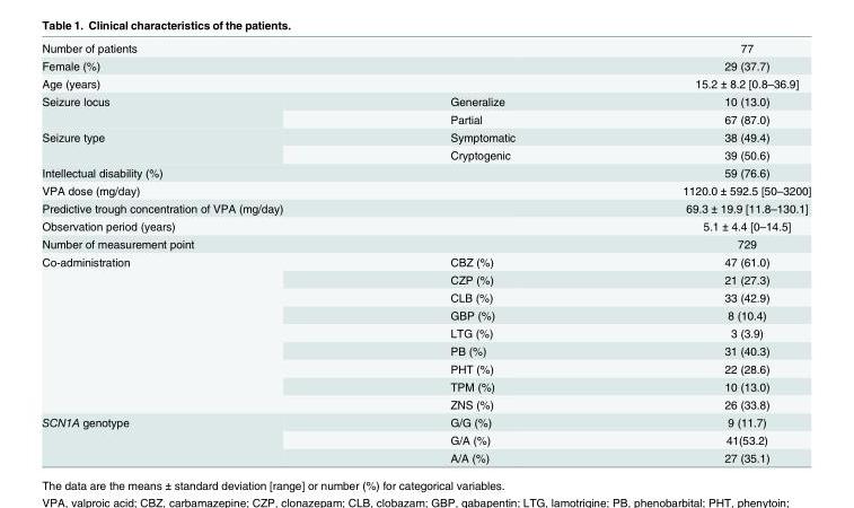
<table><tbody><tr><td>Number of patients</td><td></td><td>77</td></tr><tr><td>Female (%)</td><td></td><td>29 (37.7)</td></tr><tr><td>Age (years)</td><td></td><td>15.2 ± 8.2 [0.8–36.9]</td></tr><tr><td rowspan="2">Seizure locus</td><td>Generalize</td><td>10 (13.0)</td></tr><tr><td>Partial</td><td>67 (87.0)</td></tr><tr><td rowspan="2">Seizure type</td><td>Symptomatic</td><td>38 (49.4)</td></tr><tr><td>Cryptogenic</td><td>39 (50.6)</td></tr><tr><td>Intellectual disability (%)</td><td></td><td>59 (76.6)</td></tr><tr><td>VPA dose (mg/day)</td><td></td><td>1120.0 ± 592.5 [50–3200]</td></tr><tr><td>Predictive trough concentration of VPA (mg/day)</td><td></td><td>69.3 ± 19.9 [11.8–130.1]</td></tr><tr><td>Observation period (years)</td><td></td><td>5.1 ± 4.4 [0–14.5]</td></tr><tr><td>Number of measurement point</td><td></td><td>729</td></tr><tr><td rowspan="9">Co-administration</td><td>CBZ (%)</td><td>47 (61.0)</td></tr><tr><td>CZP (%)</td><td>21 (27.3)</td></tr><tr><td>CLB (%)</td><td>33 (42.9)</td></tr><tr><td>GBP (%)</td><td>8 (10.4)</td></tr><tr><td>LTG (%)</td><td>3 (3.9)</td></tr><tr><td>PB (%)</td><td>31 (40.3)</td></tr><tr><td>PHT (%)</td><td>22 (28.6)</td></tr><tr><td>TPM (%)</td><td>10 (13.0)</td></tr><tr><td>ZNS (%)</td><td>26 (33.8)</td></tr><tr><td rowspan="3">SCN1A genotype</td><td>G/G (%)</td><td>9 (11.7)</td></tr><tr><td>G/A (%)</td><td>41(53.2)</td></tr><tr><td>A/A (%)</td><td>27 (35.1)</td></tr></tbody></table>